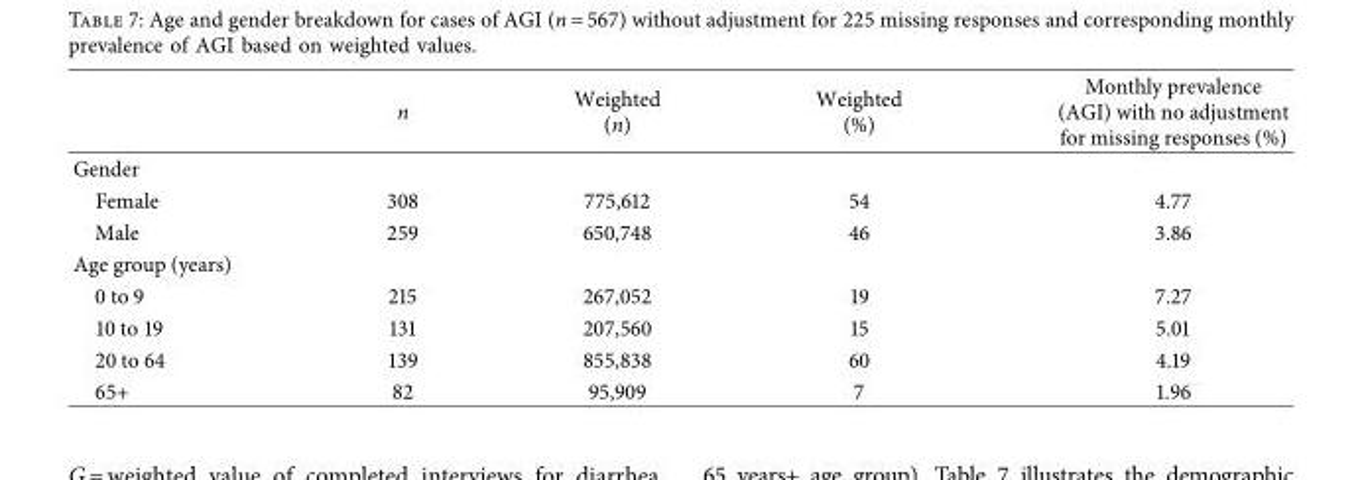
<table><thead><tr><td></td><td>n</td><td>Weighted (n)</td><td>Weighted (%)</td><td>Monthly prevalence (AGI) with no adjustment for missing responses (%)</td></tr></thead><tbody><tr><td colspan="5">Gender</td></tr><tr><td>Female</td><td>308</td><td>775,612</td><td>54</td><td>4.77</td></tr><tr><td>Male</td><td>259</td><td>650,748</td><td>46</td><td>3.86</td></tr><tr><td colspan="5">Age group (years)</td></tr><tr><td>0 to 9</td><td>215</td><td>267,052</td><td>19</td><td>7.27</td></tr><tr><td>10 to 19</td><td>131</td><td>207,560</td><td>15</td><td>5.01</td></tr><tr><td>20 to 64</td><td>139</td><td>855,838</td><td>60</td><td>4.19</td></tr><tr><td>65+</td><td>82</td><td>95,909</td><td>7</td><td>1.96</td></tr></tbody></table>